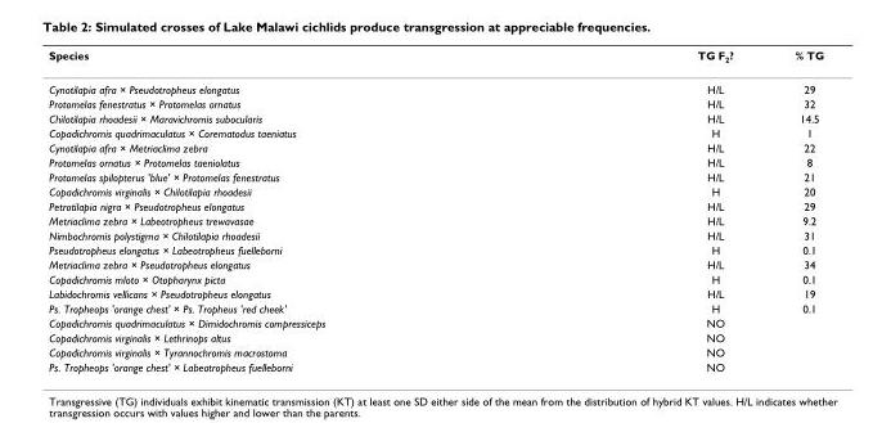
<table><thead><tr><td>Species</td><td>TG F<sub>2</sub>?</td><td>% TG</td></tr></thead><tbody><tr><td>Cynotilapia afra × Pseudotropheus elongatus</td><td>H/L</td><td>29</td></tr><tr><td>Protomelas fenestratus × Protomelas ornatus</td><td>H/L</td><td>32</td></tr><tr><td>Chilotilapia rhoadesii × Maravichromis subocularis</td><td>H/L</td><td>14.5</td></tr><tr><td>Copadichromis quadrimaculatus × Corematodus taeniatus</td><td>H</td><td>1</td></tr><tr><td>Cynotilapia afra × Metriaclima zebra</td><td>H/L</td><td>22</td></tr><tr><td>Protomelas ornatus × Protomelas taeniolatus</td><td>H/L</td><td>8</td></tr><tr><td>Protomelas spilopterus &#x27;blue&#x27; × Protomelas fenestratus</td><td>H/L</td><td>21</td></tr><tr><td>Copadichromis virginalis × Chilotilapia rhoadesii</td><td>H</td><td>20</td></tr><tr><td>Petrotilapia nigra × Pseudotropheus elongatus</td><td>H/L</td><td>29</td></tr><tr><td>Metriaclima zebra × Labeotropheus trewavasae</td><td>H/L</td><td>9.2</td></tr><tr><td>Nimbochromis polystigma × Chilotilapia rhoadesii</td><td>H/L</td><td>31</td></tr><tr><td>Pseudotropheus elongatus × Labeotropheus fuelleborni</td><td>H</td><td>0.1</td></tr><tr><td>Metriaclima zebra × Pseudotropheus elongatus</td><td>H/L</td><td>34</td></tr><tr><td>Copadichromis mloto × Otopharynx picta</td><td>H</td><td>0.1</td></tr><tr><td>Labidochromis vellicans × Pseudotropheus elongatus</td><td>H/L</td><td>19</td></tr><tr><td>Ps. Tropheops &#x27;orange chest&#x27; × Ps. Tropheus &#x27;red cheek&#x27;</td><td>H</td><td>0.1</td></tr><tr><td>Copadichromis quadrimaculatus × Dimidochromis compressiceps</td><td>NO</td><td></td></tr><tr><td>Copadichromis virginalis × Lethrinops altus</td><td>NO</td><td></td></tr><tr><td>Copadichromis virginalis × Tyrannochromis macrostoma</td><td>NO</td><td></td></tr><tr><td>Ps. Tropheops &#x27;orange chest&#x27; × Labeotropheus fuelleborni</td><td>NO</td><td></td></tr></tbody></table>